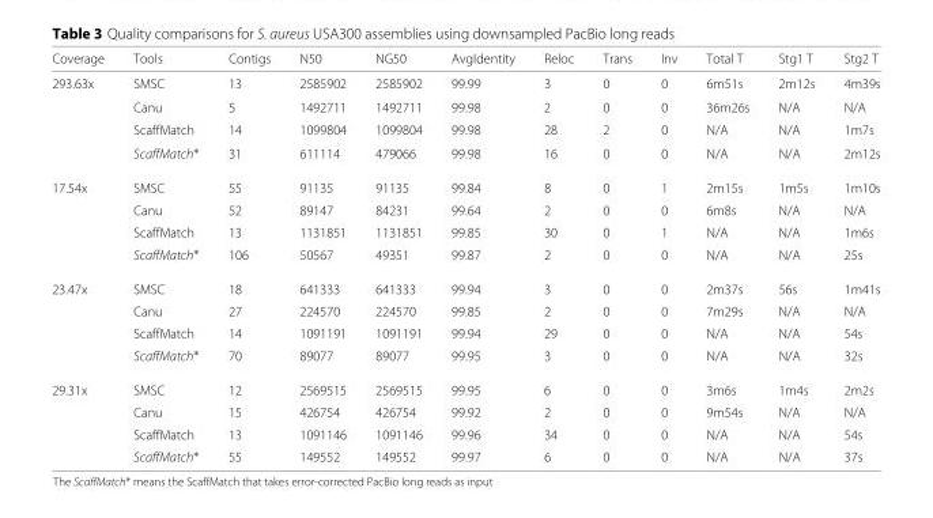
<table><thead><tr><td>Coverage</td><td>Tools</td><td>Contigs</td><td>N50</td><td>NG50</td><td>AvgIdentity</td><td>Reloc</td><td>Trans</td><td>Inv</td><td>Total T</td><td>Stg1 T</td><td>Stg2 T</td></tr></thead><tbody><tr><td rowspan="4">293.63x</td><td>SMSC</td><td>13</td><td>2585902</td><td>2585902</td><td>99.99</td><td>3</td><td>0</td><td>0</td><td>6m51s</td><td>2m12s</td><td>4m39s</td></tr><tr><td>Canu</td><td>5</td><td>1492711</td><td>1492711</td><td>99.98</td><td>2</td><td>0</td><td>0</td><td>36m26s</td><td>N/A</td><td>N/A</td></tr><tr><td>ScaffMatch</td><td>14</td><td>1099804</td><td>1099804</td><td>99.98</td><td>28</td><td>2</td><td>0</td><td>N/A</td><td>N/A</td><td>1m7s</td></tr><tr><td>ScaffMatch∗</td><td>31</td><td>611114</td><td>479066</td><td>99.98</td><td>16</td><td>0</td><td>0</td><td>N/A</td><td>N/A</td><td>2m12s</td></tr><tr><td rowspan="4">17.54x</td><td>SMSC</td><td>55</td><td>91135</td><td>91135</td><td>99.84</td><td>8</td><td>0</td><td>1</td><td>2m15s</td><td>1m5s</td><td>1m10s</td></tr><tr><td>Canu</td><td>52</td><td>89147</td><td>84231</td><td>99.64</td><td>2</td><td>0</td><td>0</td><td>6m8s</td><td>N/A</td><td>N/A</td></tr><tr><td>ScaffMatch</td><td>13</td><td>1131851</td><td>1131851</td><td>99.85</td><td>30</td><td>0</td><td>1</td><td>N/A</td><td>N/A</td><td>1m6s</td></tr><tr><td>ScaffMatch∗</td><td>106</td><td>50567</td><td>49351</td><td>99.87</td><td>2</td><td>0</td><td>0</td><td>N/A</td><td>N/A</td><td>25s</td></tr><tr><td rowspan="4">23.47x</td><td>SMSC</td><td>18</td><td>641333</td><td>641333</td><td>99.94</td><td>3</td><td>0</td><td>0</td><td>2m37s</td><td>56s</td><td>1m41s</td></tr><tr><td>Canu</td><td>27</td><td>224570</td><td>224570</td><td>99.85</td><td>2</td><td>0</td><td>0</td><td>7m29s</td><td>N/A</td><td>N/A</td></tr><tr><td>ScaffMatch</td><td>14</td><td>1091191</td><td>1091191</td><td>99.94</td><td>29</td><td>0</td><td>0</td><td>N/A</td><td>N/A</td><td>54s</td></tr><tr><td>ScaffMatch∗</td><td>70</td><td>89077</td><td>89077</td><td>99.95</td><td>3</td><td>0</td><td>0</td><td>N/A</td><td>N/A</td><td>32s</td></tr><tr><td rowspan="4">29.31x</td><td>SMSC</td><td>12</td><td>2569515</td><td>2569515</td><td>99.95</td><td>6</td><td>0</td><td>0</td><td>3m6s</td><td>1m4s</td><td>2m2s</td></tr><tr><td>Canu</td><td>15</td><td>426754</td><td>426754</td><td>99.92</td><td>2</td><td>0</td><td>0</td><td>9m54s</td><td>N/A</td><td>N/A</td></tr><tr><td>ScaffMatch</td><td>13</td><td>1091146</td><td>1091146</td><td>99.96</td><td>34</td><td>0</td><td>0</td><td>N/A</td><td>N/A</td><td>54s</td></tr><tr><td>ScaffMatch∗</td><td>55</td><td>149552</td><td>149552</td><td>99.97</td><td>6</td><td>0</td><td>0</td><td>N/A</td><td>N/A</td><td>37s</td></tr></tbody></table>